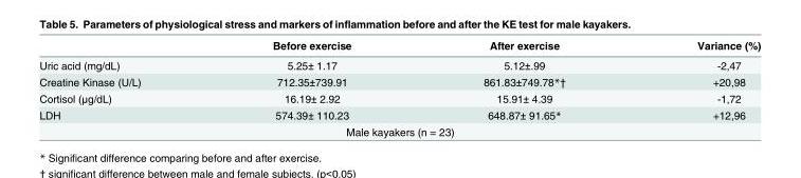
<table><thead><tr><td></td><td>Before exercise</td><td>After exercise</td><td>Variance (%)</td></tr></thead><tbody><tr><td>Uric acid (mg/dL)</td><td>5.25± 1.17</td><td>5.12±.99</td><td>-2,47</td></tr><tr><td>Creatine Kinase (U/L)</td><td>712.35±739.91</td><td>861.83±749.78*†</td><td>+20,98</td></tr><tr><td>Cortisol (μg/dL)</td><td>16.19± 2.92</td><td>15.91± 4.39</td><td>-1,72</td></tr><tr><td>LDH</td><td>574.39± 110.23</td><td>648.87± 91.65*</td><td>+12,96</td></tr><tr><td colspan="4">Male kayakers (n = 23)</td></tr></tbody></table>